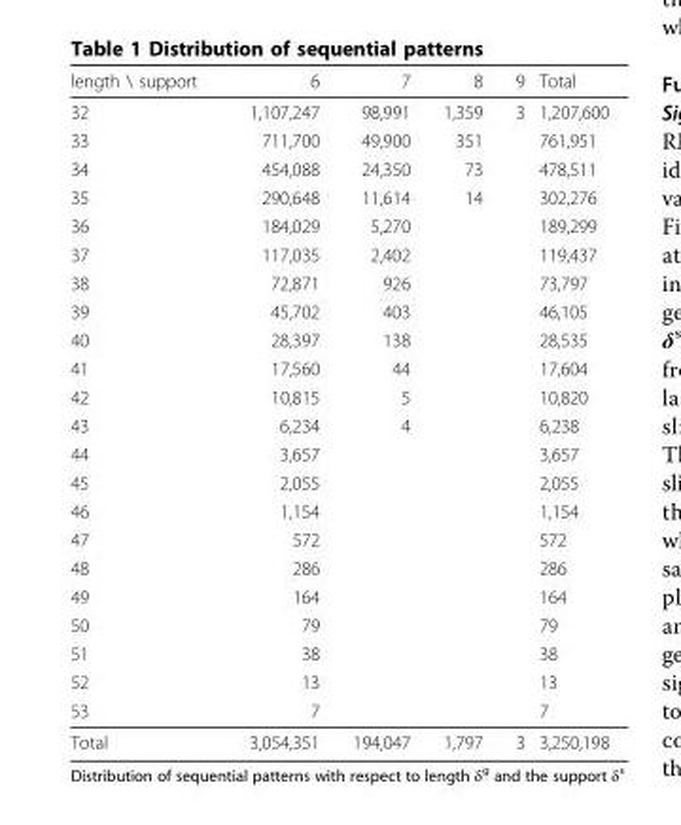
<table><thead><tr><td>length \ support</td><td>6</td><td>7</td><td>8</td><td>9</td><td>Total</td></tr></thead><tbody><tr><td>32</td><td>1,107,247</td><td>98,991</td><td>1,359</td><td>3</td><td>1,207,600</td></tr><tr><td>33</td><td>711,700</td><td>49,900</td><td>351</td><td></td><td>761,951</td></tr><tr><td>34</td><td>454,088</td><td>24,350</td><td>73</td><td></td><td>478,511</td></tr><tr><td>35</td><td>290,648</td><td>11,614</td><td>14</td><td></td><td>302,276</td></tr><tr><td>36</td><td>184,029</td><td>5,270</td><td></td><td></td><td>189,299</td></tr><tr><td>37</td><td>117,035</td><td>2,402</td><td></td><td></td><td>119,437</td></tr><tr><td>38</td><td>72,871</td><td>926</td><td></td><td></td><td>73,797</td></tr><tr><td>39</td><td>45,702</td><td>403</td><td></td><td></td><td>46,105</td></tr><tr><td>40</td><td>28,397</td><td>138</td><td></td><td></td><td>28,535</td></tr><tr><td>41</td><td>17,560</td><td>44</td><td></td><td></td><td>17,604</td></tr><tr><td>42</td><td>10,815</td><td>5</td><td></td><td></td><td>10,820</td></tr><tr><td>43</td><td>6,234</td><td>4</td><td></td><td></td><td>6,238</td></tr><tr><td>44</td><td>3,657</td><td></td><td></td><td></td><td>3,657</td></tr><tr><td>45</td><td>2,055</td><td></td><td></td><td></td><td>2,055</td></tr><tr><td>46</td><td>1,154</td><td></td><td></td><td></td><td>1,154</td></tr><tr><td>47</td><td>572</td><td></td><td></td><td></td><td>572</td></tr><tr><td>48</td><td>286</td><td></td><td></td><td></td><td>286</td></tr><tr><td>49</td><td>164</td><td></td><td></td><td></td><td>164</td></tr><tr><td>50</td><td>79</td><td></td><td></td><td></td><td>79</td></tr><tr><td>51</td><td>38</td><td></td><td></td><td></td><td>38</td></tr><tr><td>52</td><td>13</td><td></td><td></td><td></td><td>13</td></tr><tr><td>53</td><td>7</td><td></td><td></td><td></td><td>7</td></tr><tr><td>Total</td><td>3,054,351</td><td>194,047</td><td>1,797</td><td>3</td><td>3,250,198</td></tr></tbody></table>